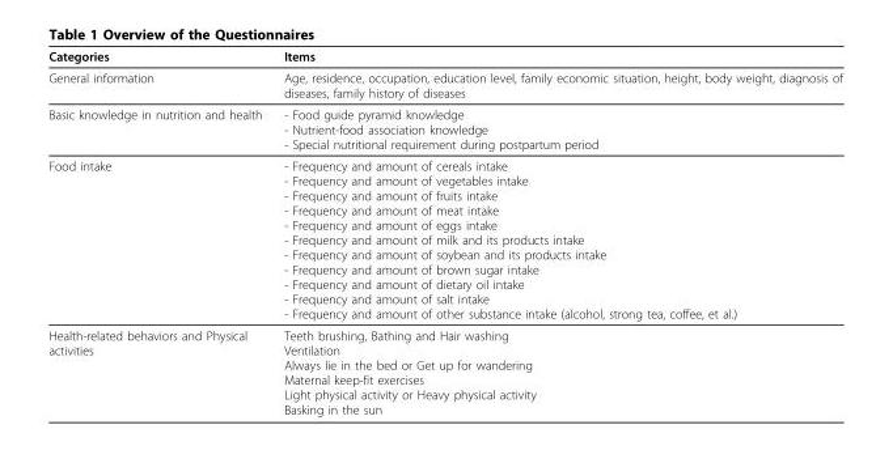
<table><thead><tr><td>Categories</td><td>Items</td></tr></thead><tbody><tr><td>General information</td><td>Age, residence, occupation, education level, family economic situation, height, body weight, diagnosis of diseases, family history of diseases</td></tr><tr><td>Basic knowledge in nutrition and health</td><td>- Food guide pyramid knowledge - Nutrient-food association knowledge - Special nutritional requirement during postpartum period</td></tr><tr><td>Food intake</td><td>- Frequency and amount of cereals intake - Frequency and amount of vegetables intake - Frequency and amount of fruits intake - Frequency and amount of meat intake - Frequency and amount of eggs intake - Frequency and amount of milk and its products intake - Frequency and amount of soybean and its products intake - Frequency and amount of brown sugar intake - Frequency and amount of dietary oil intake - Frequency and amount of salt intake - Frequency and amount of other substance intake (alcohol, strong tea, coffee, et al.)</td></tr><tr><td>Health-related behaviors and Physical activities</td><td>Teeth brushing, Bathing and Hair washing Ventilation Always lie in the bed or Get up for wandering Maternal keep-fit exercises Light physical activity or Heavy physical activity Basking in the sun</td></tr></tbody></table>